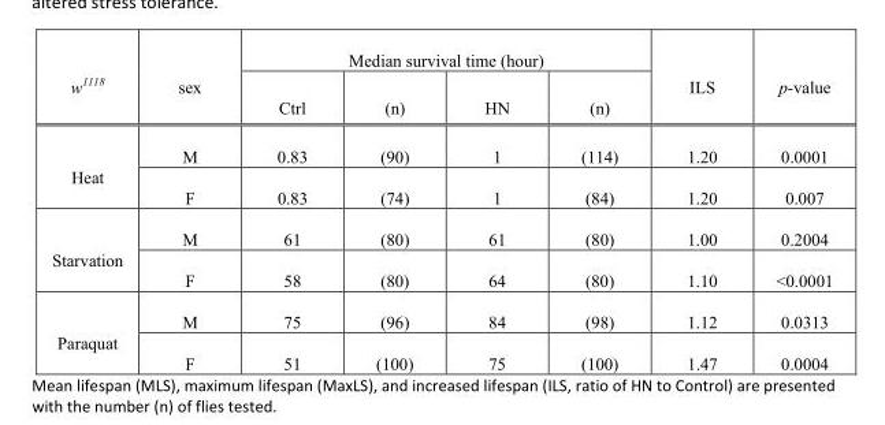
<table><thead><tr><td rowspan="2">w<sup>1118</sup></td><td rowspan="2">sex</td><td colspan="4">Median survival time (hour)</td><td rowspan="2">ILS</td><td rowspan="2">p-value</td></tr><tr><td>Ctrl</td><td>(n)</td><td>HN</td><td>(n)</td></tr></thead><tbody><tr><td rowspan="2">Heat</td><td>M</td><td>0.83</td><td>(90)</td><td>1</td><td>(114)</td><td>1.20</td><td>0.0001</td></tr><tr><td>F</td><td>0.83</td><td>(74)</td><td>1</td><td>(84)</td><td>1.20</td><td>0.007</td></tr><tr><td rowspan="2">Starvation</td><td>M</td><td>61</td><td>(80)</td><td>61</td><td>(80)</td><td>1.00</td><td>0.2004</td></tr><tr><td>F</td><td>58</td><td>(80)</td><td>64</td><td>(80)</td><td>1.10</td><td>&lt;0.0001</td></tr><tr><td rowspan="2">Paraquat</td><td>M</td><td>75</td><td>(96)</td><td>84</td><td>(98)</td><td>1.12</td><td>0.0313</td></tr><tr><td>F</td><td>51</td><td>(100)</td><td>75</td><td>(100)</td><td>1.47</td><td>0.0004</td></tr></tbody></table>